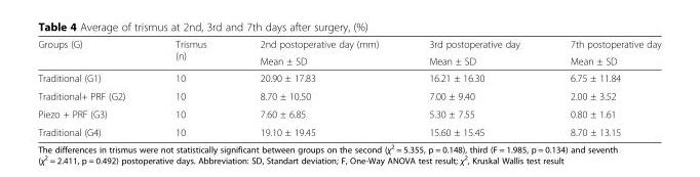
<table><thead><tr><td rowspan="2">Groups (G)</td><td rowspan="2">Trismus (n)</td><td rowspan="2">2nd postoperative day (mm) Mean ± SD</td><td rowspan="2">3rd postoperative day Mean ± SD</td><td rowspan="2">7th postoperative day Mean ± SD</td></tr><tr></tr></thead><tbody><tr><td>Traditional (G1)</td><td>10</td><td>20.90 ± 17.83</td><td>16.21 ± 16.30</td><td>6.75 ± 11.84</td></tr><tr><td>Traditional+ PRF (G2)</td><td>10</td><td>8.70 ± 10.50</td><td>7.00 ± 9.40</td><td>2.00 ± 3.52</td></tr><tr><td>Piezo + PRF (G3)</td><td>10</td><td>7.60 ± 6.85</td><td>5.30 ± 7.55</td><td>0.80 ± 1.61</td></tr><tr><td>Traditional (G4)</td><td>10</td><td>19.10 ± 19.45</td><td>15.60 ± 15.45</td><td>8.70 ± 13.15</td></tr></tbody></table>